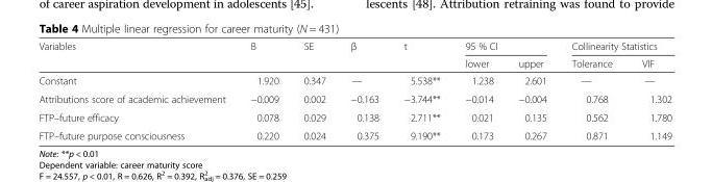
<table><thead><tr><td rowspan="2">Variables</td><td rowspan="2">B</td><td rowspan="2">SE</td><td rowspan="2">β</td><td rowspan="2">t</td><td colspan="2">95 % CI</td><td colspan="2">Collinearity Statistics</td></tr><tr><td>lower</td><td>upper</td><td>Tolerance</td><td>VIF</td></tr></thead><tbody><tr><td>Constant</td><td>1.920</td><td>0.347</td><td>—</td><td>5.538**</td><td>1.238</td><td>2.601</td><td>—</td><td>—</td></tr><tr><td>Attributions score of academic achievement</td><td>−0.009</td><td>0.002</td><td>−0.163</td><td>−3.744**</td><td>−0.014</td><td>−0.004</td><td>0.768</td><td>1.302</td></tr><tr><td>FTP–future efficacy</td><td>0.078</td><td>0.029</td><td>0.138</td><td>2.711**</td><td>0.021</td><td>0.135</td><td>0.562</td><td>1.780</td></tr><tr><td>FTP–future purpose consciousness</td><td>0.220</td><td>0.024</td><td>0.375</td><td>9.190**</td><td>0.173</td><td>0.267</td><td>0.871</td><td>1.149</td></tr></tbody></table>